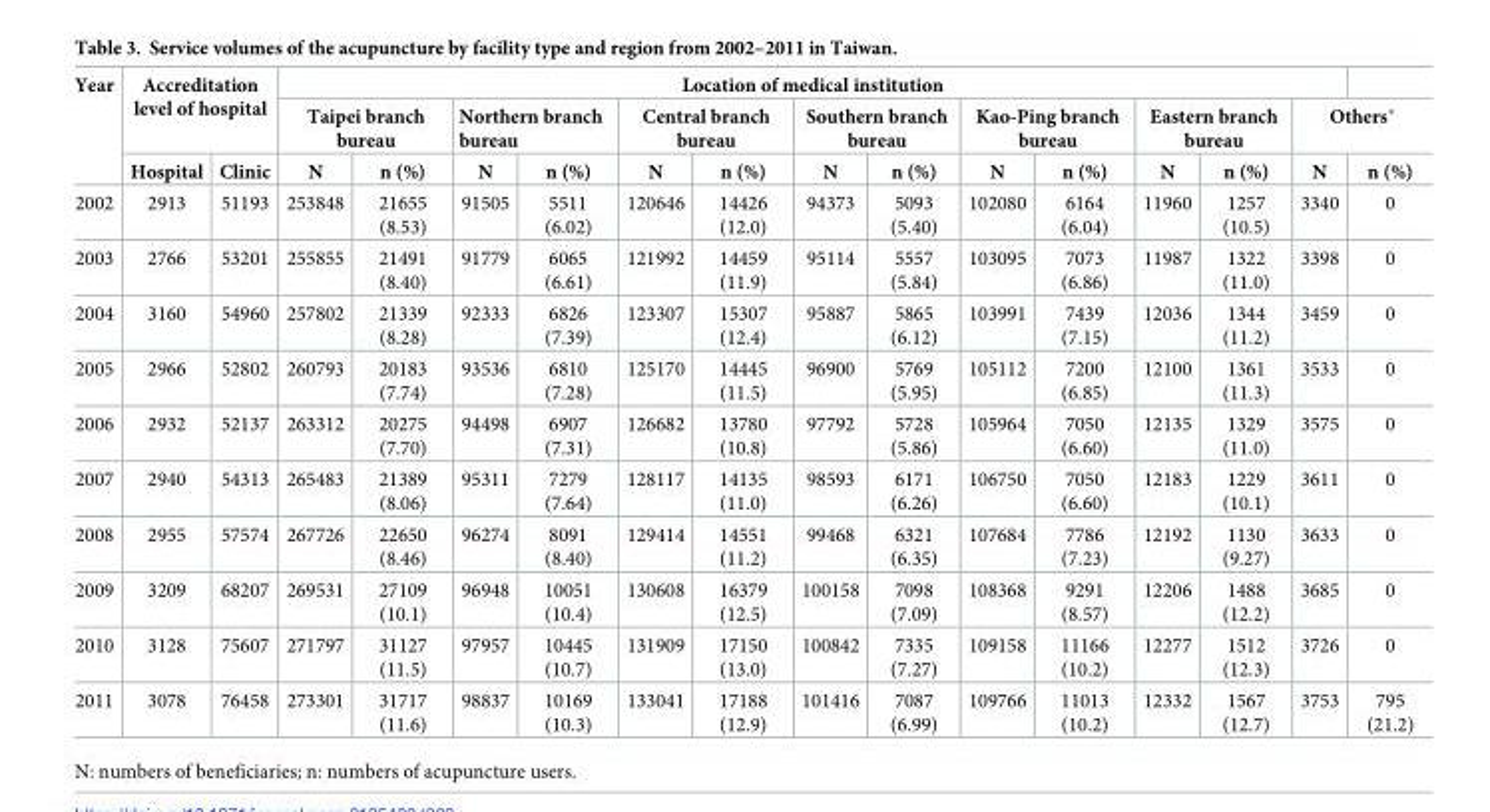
<table><thead><tr><td rowspan="3">Year</td><td rowspan="2" colspan="2">Accreditation level of hospital</td><td colspan="13">Location of medical institution</td><td></td></tr><tr><td colspan="2">Taipei branch bureau</td><td colspan="2">Northern branch bureau</td><td colspan="2">Central branch bureau</td><td colspan="2">Southern branch bureau</td><td colspan="2">Kao-Ping branch bureau</td><td colspan="2">Eastern branch bureau</td><td colspan="2">Others*</td></tr><tr><td>Hospital</td><td>Clinic</td><td>N</td><td>n (%)</td><td>N</td><td>n (%)</td><td>N</td><td>n (%)</td><td>N</td><td>n (%)</td><td>N</td><td>n (%)</td><td>N</td><td>n (%)</td><td>N</td><td>n (%)</td></tr></thead><tbody><tr><td>2002</td><td>2913</td><td>51193</td><td>253848</td><td>21655 (8.53)</td><td>91505</td><td>5511 (6.02)</td><td>120646</td><td>14426 (12.0)</td><td>94373</td><td>5093 (5.40)</td><td>102080</td><td>6164 (6.04)</td><td>11960</td><td>1257 (10.5)</td><td>3340</td><td>0</td></tr><tr><td>2003</td><td>2766</td><td>53201</td><td>255855</td><td>21491 (8.40)</td><td>91779</td><td>6065 (6.61)</td><td>121992</td><td>14459 (11.9)</td><td>95114</td><td>5557 (5.84)</td><td>103095</td><td>7073 (6.86)</td><td>11987</td><td>1322 (11.0)</td><td>3398</td><td>0</td></tr><tr><td>2004</td><td>3160</td><td>54960</td><td>257802</td><td>21339 (8.28)</td><td>92333</td><td>6826 (7.39)</td><td>123307</td><td>15307 (12.4)</td><td>95887</td><td>5865 (6.12)</td><td>103991</td><td>7439 (7.15)</td><td>12036</td><td>1344 (11.2)</td><td>3459</td><td>0</td></tr><tr><td>2005</td><td>2966</td><td>52802</td><td>260793</td><td>20183 (7.74)</td><td>93536</td><td>6810 (7.28)</td><td>125170</td><td>14445 (11.5)</td><td>96900</td><td>5769 (5.95)</td><td>105112</td><td>7200 (6.85)</td><td>12100</td><td>1361 (11.3)</td><td>3533</td><td>0</td></tr><tr><td>2006</td><td>2932</td><td>52137</td><td>263312</td><td>20275 (7.70)</td><td>94498</td><td>6907 (7.31)</td><td>126682</td><td>13780 (10.8)</td><td>97792</td><td>5728 (5.86)</td><td>105964</td><td>7050 (6.60)</td><td>12135</td><td>1329 (11.0)</td><td>3575</td><td>0</td></tr><tr><td>2007</td><td>2940</td><td>54313</td><td>265483</td><td>21389 (8.06)</td><td>95311</td><td>7279 (7.64)</td><td>128117</td><td>14135 (11.0)</td><td>98593</td><td>6171 (6.26)</td><td>106750</td><td>7050 (6.60)</td><td>12183</td><td>1229 (10.1)</td><td>3611</td><td>0</td></tr><tr><td>2008</td><td>2955</td><td>57574</td><td>267726</td><td>22650 (8.46)</td><td>96274</td><td>8091 (8.40)</td><td>129414</td><td>14551 (11.2)</td><td>99468</td><td>6321 (6.35)</td><td>107684</td><td>7786 (7.23)</td><td>12192</td><td>1130 (9.27)</td><td>3633</td><td>0</td></tr><tr><td>2009</td><td>3209</td><td>68207</td><td>269531</td><td>27109 (10.1)</td><td>96948</td><td>10051 (10.4)</td><td>130608</td><td>16379 (12.5)</td><td>100158</td><td>7098 (7.09)</td><td>108368</td><td>9291 (8.57)</td><td>12206</td><td>1488 (12.2)</td><td>3685</td><td>0</td></tr><tr><td>2010</td><td>3128</td><td>75607</td><td>271797</td><td>31127 (11.5)</td><td>97957</td><td>10445 (10.7)</td><td>131909</td><td>17150 (13.0)</td><td>100842</td><td>7335 (7.27)</td><td>109158</td><td>11166 (10.2)</td><td>12277</td><td>1512 (12.3)</td><td>3726</td><td>0</td></tr><tr><td>2011</td><td>3078</td><td>76458</td><td>273301</td><td>31717 (11.6)</td><td>98837</td><td>10169 (10.3)</td><td>133041</td><td>17188 (12.9)</td><td>101416</td><td>7087 (6.99)</td><td>109766</td><td>11013 (10.2)</td><td>12332</td><td>1567 (12.7)</td><td>3753</td><td>795 (21.2)</td></tr></tbody></table>